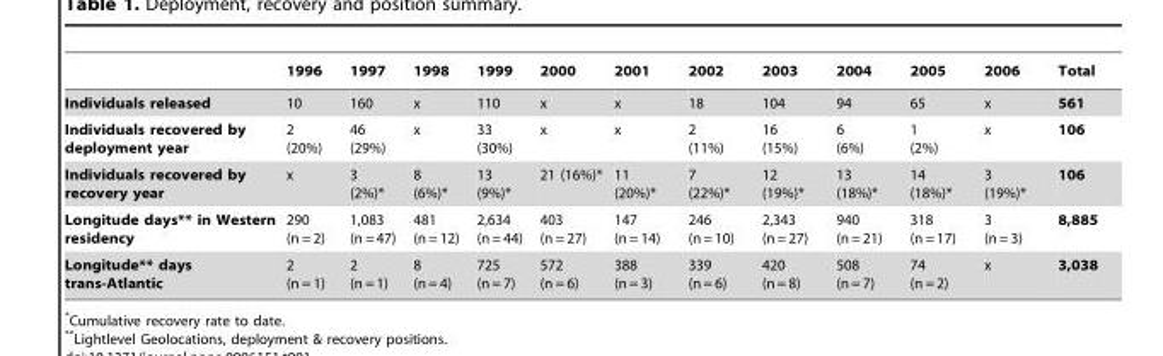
<table><thead><tr><td></td><td>1996</td><td>1997</td><td>1998</td><td>1999</td><td>2000</td><td>2001</td><td>2002</td><td>2003</td><td>2004</td><td>2005</td><td>2006</td><td>Total</td></tr></thead><tbody><tr><td>Individuals released</td><td>10</td><td>160</td><td>x</td><td>110</td><td>x</td><td>x</td><td>18</td><td>104</td><td>94</td><td>65</td><td>x</td><td>561</td></tr><tr><td>Individuals recovered by deployment year</td><td>2 (20%)</td><td>46 (29%)</td><td>x</td><td>33 (30%)</td><td>x</td><td>x</td><td>2 (11%)</td><td>16 (15%)</td><td>6 (6%)</td><td>1 (2%)</td><td>x</td><td>106</td></tr><tr><td>Individuals recovered by recovery year</td><td>x</td><td>3 (2%)*</td><td>8 (6%)*</td><td>13 (9%)*</td><td>21 (16%)*</td><td>11 (20%)*</td><td>7 (22%)*</td><td>12 (19%)*</td><td>13 (18%)*</td><td>14 (18%)*</td><td>3 (19%)*</td><td>106</td></tr><tr><td>Longitude days** in Western residency</td><td>290 (n = 2)</td><td>1,083 (n = 47)</td><td>481 (n = 12)</td><td>2,634 (n = 44)</td><td>403 (n = 27)</td><td>147 (n = 14)</td><td>246 (n = 10)</td><td>2,343 (n = 27)</td><td>940 (n = 21)</td><td>318 (n = 17)</td><td>3 (n = 3)</td><td>8,885</td></tr><tr><td>Longitude** days trans-Atlantic</td><td>2 (n = 1)</td><td>2 (n = 1)</td><td>8 (n = 4)</td><td>725 (n = 7)</td><td>572 (n = 6)</td><td>388 (n = 3)</td><td>339 (n = 6)</td><td>420 (n = 8)</td><td>508 (n = 7)</td><td>74 (n = 2)</td><td>x</td><td>3,038</td></tr></tbody></table>